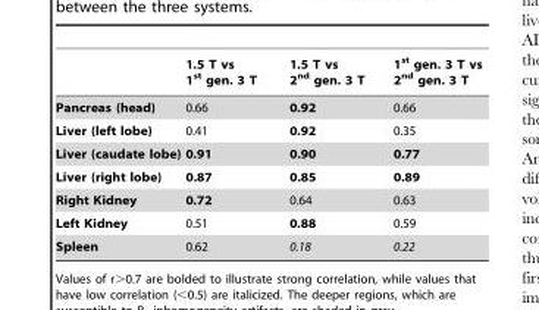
<table><thead><tr><td></td><td>1.5 T vs 1<sup>st</sup> gen. 3 T</td><td>1.5 T vs 2<sup>nd</sup> gen. 3 T</td><td>1<sup>st</sup> gen. 3 T vs 2<sup>nd</sup> gen. 3 T</td></tr></thead><tbody><tr><td>Pancreas (head)</td><td>0.66</td><td>0.92</td><td>0.66</td></tr><tr><td>Liver (left lobe)</td><td>0.41</td><td>0.92</td><td>0.35</td></tr><tr><td>Liver (caudate lobe)</td><td>0.91</td><td>0.90</td><td>0.77</td></tr><tr><td>Liver (right lobe)</td><td>0.87</td><td>0.85</td><td>0.89</td></tr><tr><td>Right Kidney</td><td>0.72</td><td>0.64</td><td>0.63</td></tr><tr><td>Left Kidney</td><td>0.51</td><td>0.88</td><td>0.59</td></tr><tr><td>Spleen</td><td>0.62</td><td>0.18</td><td>0.22</td></tr></tbody></table>